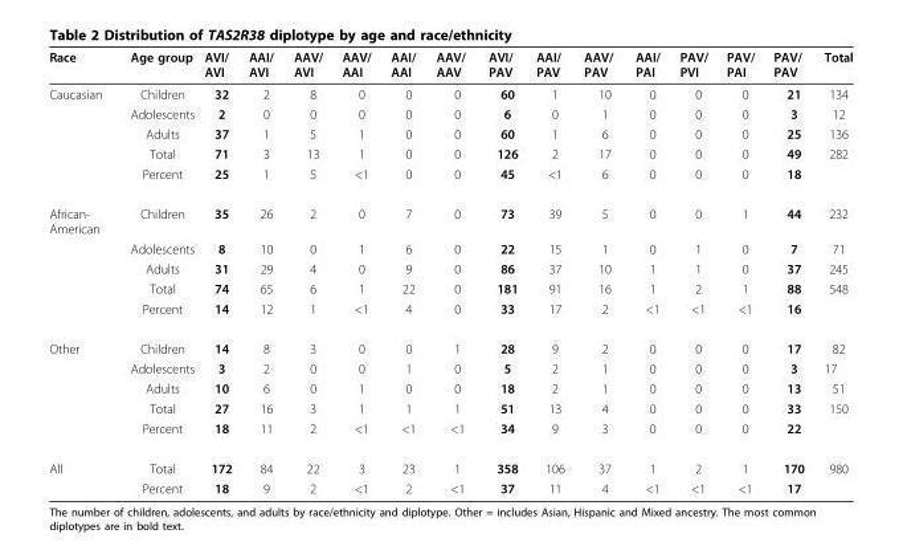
<table><thead><tr><td>Race</td><td>Age group</td><td>AVI/ AVI</td><td>AAI/ AVI</td><td>AAV/ AVI</td><td>AAV/ AAI</td><td>AAI/ AAI</td><td>AAV/ AAV</td><td>AVI/ PAV</td><td>AAI/ PAV</td><td>AAV/ PAV</td><td>AAI/ PAI</td><td>PAV/ PVI</td><td>PAV/ PAI</td><td>PAV/ PAV</td><td>Total</td></tr></thead><tbody><tr><td rowspan="5">Caucasian</td><td>Children</td><td>32</td><td>2</td><td>8</td><td>0</td><td>0</td><td>0</td><td>60</td><td>1</td><td>10</td><td>0</td><td>0</td><td>0</td><td>21</td><td>134</td></tr><tr><td>Adolescents</td><td>2</td><td>0</td><td>0</td><td>0</td><td>0</td><td>0</td><td>6</td><td>0</td><td>1</td><td>0</td><td>0</td><td>0</td><td>3</td><td>12</td></tr><tr><td>Adults</td><td>37</td><td>1</td><td>5</td><td>1</td><td>0</td><td>0</td><td>60</td><td>1</td><td>6</td><td>0</td><td>0</td><td>0</td><td>25</td><td>136</td></tr><tr><td>Total</td><td>71</td><td>3</td><td>13</td><td>1</td><td>0</td><td>0</td><td>126</td><td>2</td><td>17</td><td>0</td><td>0</td><td>0</td><td>49</td><td>282</td></tr><tr><td>Percent</td><td>25</td><td>1</td><td>5</td><td>&lt;1</td><td>0</td><td>0</td><td>45</td><td>&lt;1</td><td>6</td><td>0</td><td>0</td><td>0</td><td>18</td><td></td></tr><tr><td rowspan="5">African- American</td><td>Children</td><td>35</td><td>26</td><td>2</td><td>0</td><td>7</td><td>0</td><td>73</td><td>39</td><td>5</td><td>0</td><td>0</td><td>1</td><td>44</td><td>232</td></tr><tr><td>Adolescents</td><td>8</td><td>10</td><td>0</td><td>1</td><td>6</td><td>0</td><td>22</td><td>15</td><td>1</td><td>0</td><td>1</td><td>0</td><td>7</td><td>71</td></tr><tr><td>Adults</td><td>31</td><td>29</td><td>4</td><td>0</td><td>9</td><td>0</td><td>86</td><td>37</td><td>10</td><td>1</td><td>1</td><td>0</td><td>37</td><td>245</td></tr><tr><td>Total</td><td>74</td><td>65</td><td>6</td><td>1</td><td>22</td><td>0</td><td>181</td><td>91</td><td>16</td><td>1</td><td>2</td><td>1</td><td>88</td><td>548</td></tr><tr><td>Percent</td><td>14</td><td>12</td><td>1</td><td>&lt;1</td><td>4</td><td>0</td><td>33</td><td>17</td><td>2</td><td>&lt;1</td><td>&lt;1</td><td>&lt;1</td><td>16</td><td></td></tr><tr><td rowspan="5">Other</td><td>Children</td><td>14</td><td>8</td><td>3</td><td>0</td><td>0</td><td>1</td><td>28</td><td>9</td><td>2</td><td>0</td><td>0</td><td>0</td><td>17</td><td>82</td></tr><tr><td>Adolescents</td><td>3</td><td>2</td><td>0</td><td>0</td><td>1</td><td>0</td><td>5</td><td>2</td><td>1</td><td>0</td><td>0</td><td>0</td><td>3</td><td>17</td></tr><tr><td>Adults</td><td>10</td><td>6</td><td>0</td><td>1</td><td>0</td><td>0</td><td>18</td><td>2</td><td>1</td><td>0</td><td>0</td><td>0</td><td>13</td><td>51</td></tr><tr><td>Total</td><td>27</td><td>16</td><td>3</td><td>1</td><td>1</td><td>1</td><td>51</td><td>13</td><td>4</td><td>0</td><td>0</td><td>0</td><td>33</td><td>150</td></tr><tr><td>Percent</td><td>18</td><td>11</td><td>2</td><td>&lt;1</td><td>&lt;1</td><td>&lt;1</td><td>34</td><td>9</td><td>3</td><td>0</td><td>0</td><td>0</td><td>22</td><td></td></tr><tr><td rowspan="2">All</td><td>Total</td><td>172</td><td>84</td><td>22</td><td>3</td><td>23</td><td>1</td><td>358</td><td>106</td><td>37</td><td>1</td><td>2</td><td>1</td><td>170</td><td>980</td></tr><tr><td>Percent</td><td>18</td><td>9</td><td>2</td><td>&lt;1</td><td>2</td><td>&lt;1</td><td>37</td><td>11</td><td>4</td><td>&lt;1</td><td>&lt;1</td><td>&lt;1</td><td>17</td><td></td></tr></tbody></table>